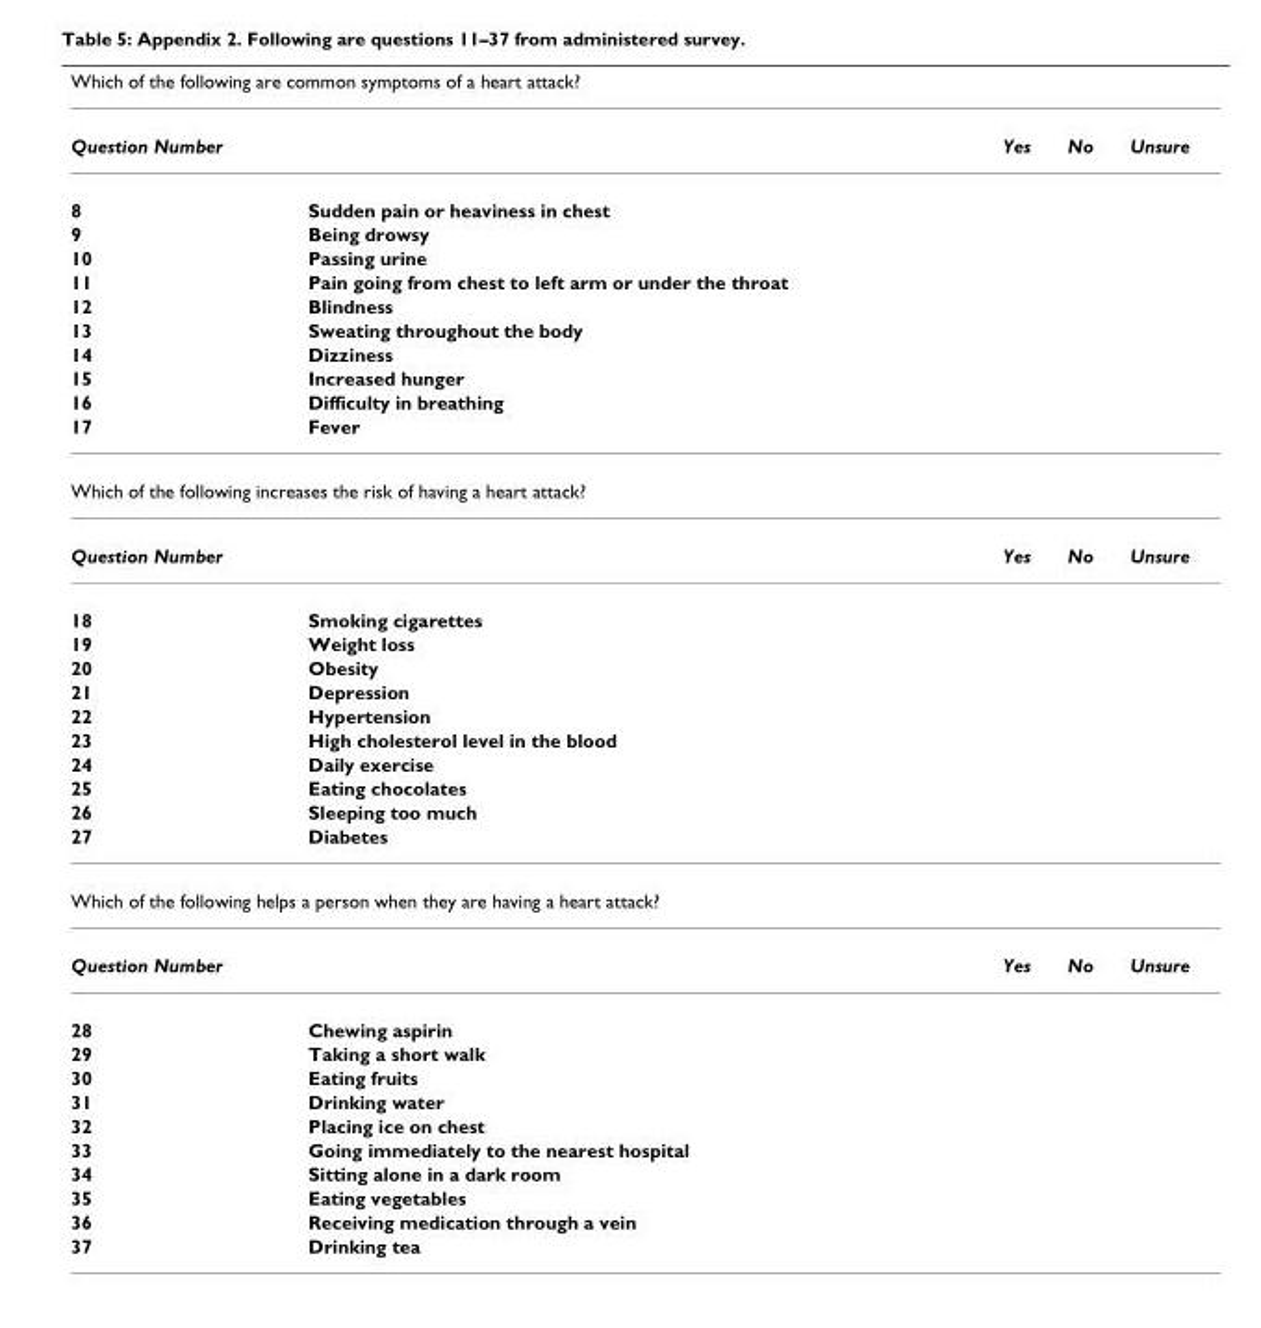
<table><thead><tr><td colspan="5">Which of the following are common symptoms of a heart attack?</td></tr><tr><td>Question Number</td><td></td><td>Yes</td><td>No</td><td>Unsure</td></tr></thead><tbody><tr><td>8</td><td>Sudden pain or heaviness in chest</td><td></td><td></td><td></td></tr><tr><td>9</td><td>Being drowsy</td><td></td><td></td><td></td></tr><tr><td>10</td><td>Passing urine</td><td></td><td></td><td></td></tr><tr><td>11</td><td>Pain going from chest to left arm or under the throat</td><td></td><td></td><td></td></tr><tr><td>12</td><td>Blindness</td><td></td><td></td><td></td></tr><tr><td>13</td><td>Sweating throughout the body</td><td></td><td></td><td></td></tr><tr><td>14</td><td>Dizziness</td><td></td><td></td><td></td></tr><tr><td>15</td><td>Increased hunger</td><td></td><td></td><td></td></tr><tr><td>16</td><td>Difficulty in breathing</td><td></td><td></td><td></td></tr><tr><td>17</td><td>Fever</td><td></td><td></td><td></td></tr><tr><td colspan="5">Which of the following increases the risk of having a heart attack?</td></tr><tr><td>Question Number</td><td></td><td>Yes</td><td>No</td><td>Unsure</td></tr><tr><td>18</td><td>Smoking cigarettes</td><td></td><td></td><td></td></tr><tr><td>19</td><td>Weight loss</td><td></td><td></td><td></td></tr><tr><td>20</td><td>Obesity</td><td></td><td></td><td></td></tr><tr><td>21</td><td>Depression</td><td></td><td></td><td></td></tr><tr><td>22</td><td>Hypertension</td><td></td><td></td><td></td></tr><tr><td>23</td><td>High cholesterol level in the blood</td><td></td><td></td><td></td></tr><tr><td>24</td><td>Daily exercise</td><td></td><td></td><td></td></tr><tr><td>25</td><td>Eating chocolates</td><td></td><td></td><td></td></tr><tr><td>26</td><td>Sleeping too much</td><td></td><td></td><td></td></tr><tr><td>27</td><td>Diabetes</td><td></td><td></td><td></td></tr><tr><td colspan="5">Which of the following helps a person when they are having a heart attack?</td></tr><tr><td>Question Number</td><td></td><td>Yes</td><td>No</td><td>Unsure</td></tr><tr><td>28</td><td>Chewing aspirin</td><td></td><td></td><td></td></tr><tr><td>29</td><td>Taking a short walk</td><td></td><td></td><td></td></tr><tr><td>30</td><td>Eating fruits</td><td></td><td></td><td></td></tr><tr><td>31</td><td>Drinking water</td><td></td><td></td><td></td></tr><tr><td>32</td><td>Placing ice on chest</td><td></td><td></td><td></td></tr><tr><td>33</td><td>Going immediately to the nearest hospital</td><td></td><td></td><td></td></tr><tr><td>34</td><td>Sitting alone in a dark room</td><td></td><td></td><td></td></tr><tr><td>35</td><td>Eating vegetables</td><td></td><td></td><td></td></tr><tr><td>36</td><td>Receiving medication through a vein</td><td></td><td></td><td></td></tr><tr><td>37</td><td>Drinking tea</td><td></td><td></td><td></td></tr></tbody></table>